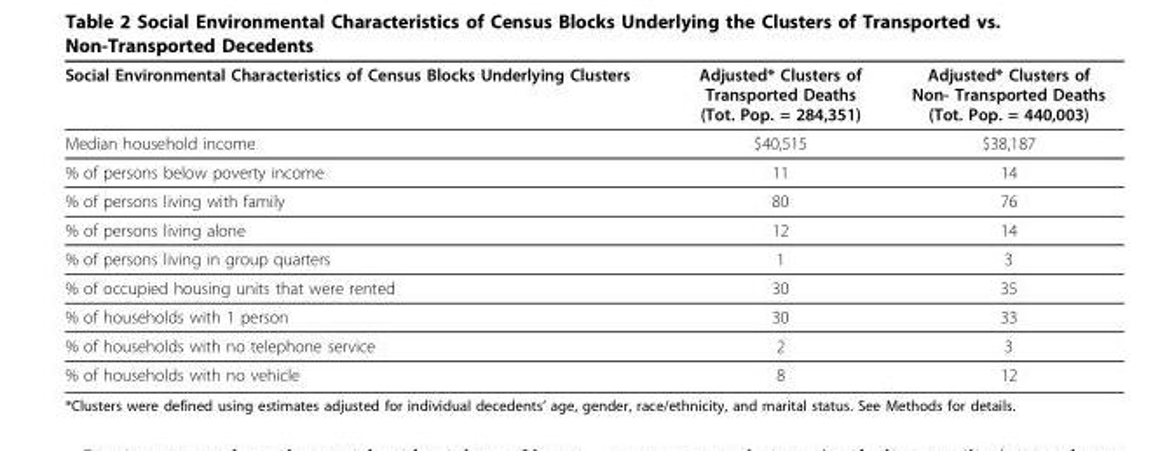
<table><thead><tr><td>Social Environmental Characteristics of Census Blocks Underlying Clusters</td><td>Adjusted* Clusters of Transported Deaths (Tot. Pop. = 284,351)</td><td>Adjusted* Clusters of Non- Transported Deaths (Tot. Pop. = 440,003)</td></tr></thead><tbody><tr><td>Median household income</td><td>$40,515</td><td>$38,187</td></tr><tr><td>% of persons below poverty income</td><td>11</td><td>14</td></tr><tr><td>% of persons living with family</td><td>80</td><td>76</td></tr><tr><td>% of persons living alone</td><td>12</td><td>14</td></tr><tr><td>% of persons living in group quarters</td><td>1</td><td>3</td></tr><tr><td>% of occupied housing units that were rented</td><td>30</td><td>35</td></tr><tr><td>% of households with 1 person</td><td>30</td><td>33</td></tr><tr><td>% of households with no telephone service</td><td>2</td><td>3</td></tr><tr><td>% of households with no vehicle</td><td>8</td><td>12</td></tr></tbody></table>